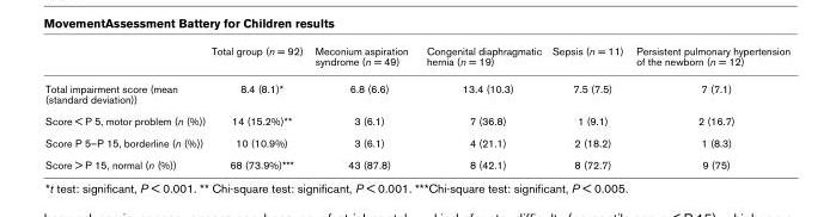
<table><thead><tr><td></td><td>Total group (n = 92)</td><td>Meconium aspiration syndrome (n = 49)</td><td>Congenital diaphragmatic hernia (n = 19)</td><td>Sepsis (n = 11)</td><td>Persistent pulmonary hypertension of the newborn (n = 12)</td></tr></thead><tbody><tr><td>Total impairment score (mean (standard deviation))</td><td>8.4 (8.1)*</td><td>6.8 (6.6)</td><td>13.4 (10.3)</td><td>7.5 (7.5)</td><td>7 (7.1)</td></tr><tr><td>Score &lt; P 5, motor problem (n (%))</td><td>14 (15.2%)**</td><td>3 (6.1)</td><td>7 (36.8)</td><td>1 (9.1)</td><td>2 (16.7)</td></tr><tr><td>Score P 5–P 15, borderline (n (%))</td><td>10 (10.9%)</td><td>3 (6.1)</td><td>4 (21.1)</td><td>2 (18.2)</td><td>1 (8.3)</td></tr><tr><td>Score &gt; P 15, normal (n (%))</td><td>68 (73.9%)***</td><td>43 (87.8)</td><td>8 (42.1)</td><td>8 (72.7)</td><td>9 (75)</td></tr></tbody></table>